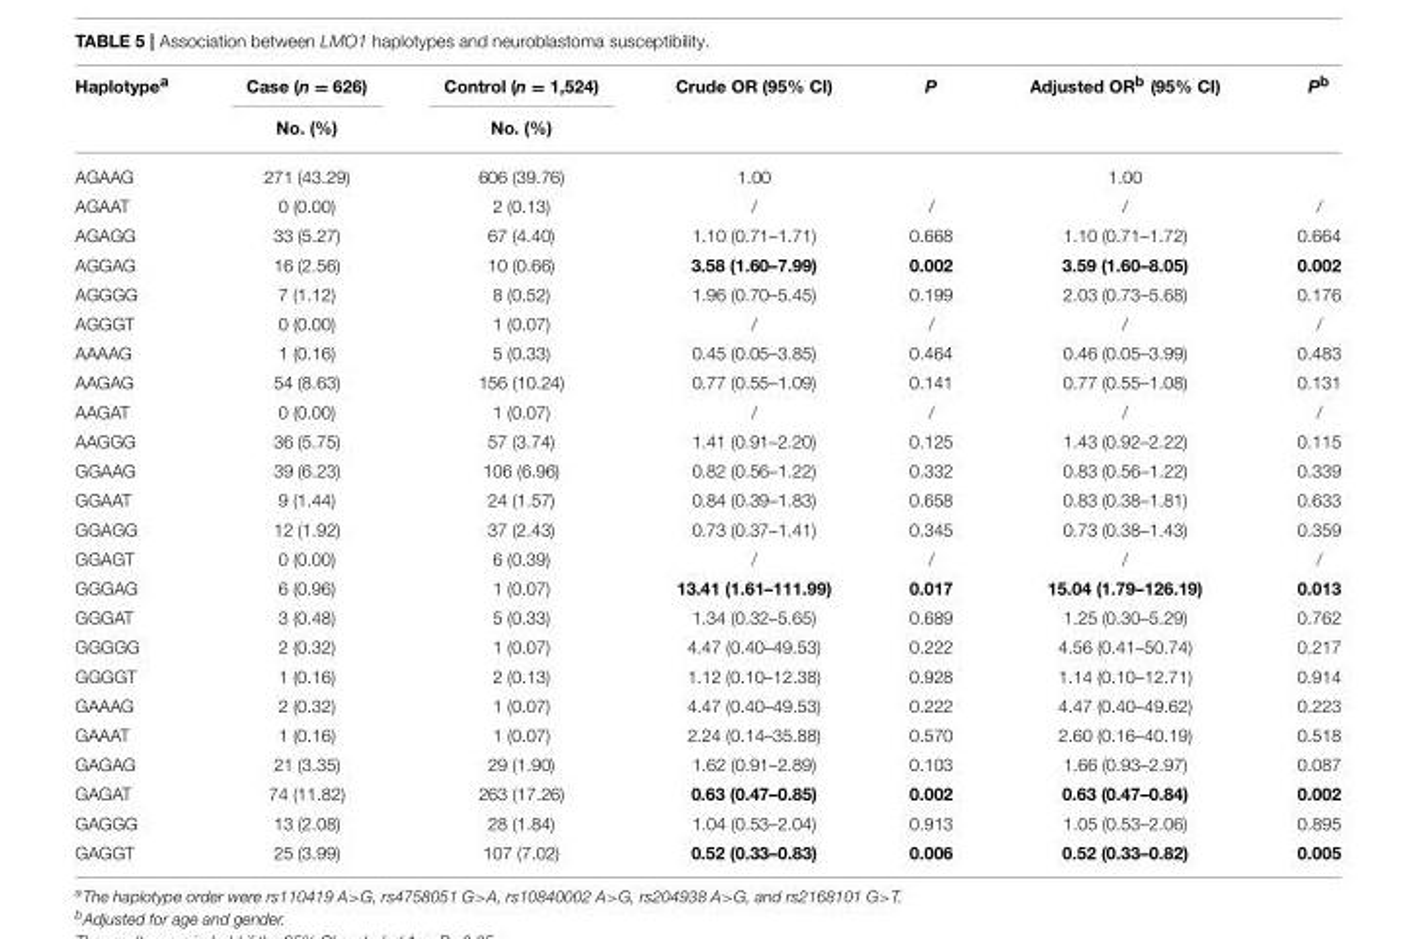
<table><thead><tr><td rowspan="2">Haplotype<sup>a</sup></td><td rowspan="2">Case (n = 626) No. (%)</td><td rowspan="2">Control (n = 1,524) No. (%)</td><td rowspan="2">Crude OR (95% CI)</td><td rowspan="2">P</td><td rowspan="2">Adjusted OR<sup>b</sup> (95% CI)</td><td rowspan="2">P<sup>b</sup></td></tr><tr></tr></thead><tbody><tr><td>AGAAG</td><td>271 (43.29)</td><td>606 (39.76)</td><td>1.00</td><td></td><td>1.00</td><td></td></tr><tr><td>AGAAT</td><td>0 (0.00)</td><td>2 (0.13)</td><td>/</td><td>/</td><td>/</td><td>/</td></tr><tr><td>AGAGG</td><td>33 (5.27)</td><td>67 (4.40)</td><td>1.10 (0.71–1.71)</td><td>0.668</td><td>1.10 (0.71–1.72)</td><td>0.664</td></tr><tr><td>AGGAG</td><td>16 (2.56)</td><td>10 (0.66)</td><td>3.58 (1.60–7.99)</td><td>0.002</td><td>3.59 (1.60–8.05)</td><td>0.002</td></tr><tr><td>AGGGG</td><td>7 (1.12)</td><td>8 (0.52)</td><td>1.96 (0.70–5.45)</td><td>0.199</td><td>2.03 (0.73–5.68)</td><td>0.176</td></tr><tr><td>AGGGT</td><td>0 (0.00)</td><td>1 (0.07)</td><td>/</td><td>/</td><td>/</td><td>/</td></tr><tr><td>AAAAG</td><td>1 (0.16)</td><td>5 (0.33)</td><td>0.45 (0.05–3.85)</td><td>0.464</td><td>0.46 (0.05–3.99)</td><td>0.483</td></tr><tr><td>AAGAG</td><td>54 (8.63)</td><td>156 (10.24)</td><td>0.77 (0.55–1.09)</td><td>0.141</td><td>0.77 (0.55–1.08)</td><td>0.131</td></tr><tr><td>AAGAT</td><td>0 (0.00)</td><td>1 (0.07)</td><td>/</td><td>/</td><td>/</td><td>/</td></tr><tr><td>AAGGG</td><td>36 (5.75)</td><td>57 (3.74)</td><td>1.41 (0.91–2.20)</td><td>0.125</td><td>1.43 (0.92–2.22)</td><td>0.115</td></tr><tr><td>GGAAG</td><td>39 (6.23)</td><td>106 (6.96)</td><td>0.82 (0.56–1.22)</td><td>0.332</td><td>0.83 (0.56–1.22)</td><td>0.339</td></tr><tr><td>GGAAT</td><td>9 (1.44)</td><td>24 (1.57)</td><td>0.84 (0.39–1.83)</td><td>0.658</td><td>0.83 (0.38–1.81)</td><td>0.633</td></tr><tr><td>GGAGG</td><td>12 (1.92)</td><td>37 (2.43)</td><td>0.73 (0.37–1.41)</td><td>0.345</td><td>0.73 (0.38–1.43)</td><td>0.359</td></tr><tr><td>GGAGT</td><td>0 (0.00)</td><td>6 (0.39)</td><td>/</td><td>/</td><td>/</td><td>/</td></tr><tr><td>GGGAG</td><td>6 (0.96)</td><td>1 (0.07)</td><td>13.41 (1.61–111.99)</td><td>0.017</td><td>15.04 (1.79–126.19)</td><td>0.013</td></tr><tr><td>GGGAT</td><td>3 (0.48)</td><td>5 (0.33)</td><td>1.34 (0.32–5.65)</td><td>0.689</td><td>1.25 (0.30–5.29)</td><td>0.762</td></tr><tr><td>GGGGG</td><td>2 (0.32)</td><td>1 (0.07)</td><td>4.47 (0.40–49.53)</td><td>0.222</td><td>4.56 (0.41–50.74)</td><td>0.217</td></tr><tr><td>GGGGT</td><td>1 (0.16)</td><td>2 (0.13)</td><td>1.12 (0.10–12.38)</td><td>0.928</td><td>1.14 (0.10–12.71)</td><td>0.914</td></tr><tr><td>GAAAG</td><td>2 (0.32)</td><td>1 (0.07)</td><td>4.47 (0.40–49.53)</td><td>0.222</td><td>4.47 (0.40–49.62)</td><td>0.223</td></tr><tr><td>GAAAT</td><td>1 (0.16)</td><td>1 (0.07)</td><td>2.24 (0.14–35.88)</td><td>0.570</td><td>2.60 (0.16–40.19)</td><td>0.518</td></tr><tr><td>GAGAG</td><td>21 (3.35)</td><td>29 (1.90)</td><td>1.62 (0.91–2.89)</td><td>0.103</td><td>1.66 (0.93–2.97)</td><td>0.087</td></tr><tr><td>GAGAT</td><td>74 (11.82)</td><td>263 (17.26)</td><td>0.63 (0.47–0.85)</td><td>0.002</td><td>0.63 (0.47–0.84)</td><td>0.002</td></tr><tr><td>GAGGG</td><td>13 (2.08)</td><td>28 (1.84)</td><td>1.04 (0.53–2.04)</td><td>0.913</td><td>1.05 (0.53–2.06)</td><td>0.895</td></tr><tr><td>GAGGT</td><td>25 (3.99)</td><td>107 (7.02)</td><td>0.52 (0.33–0.83)</td><td>0.006</td><td>0.52 (0.33–0.82)</td><td>0.005</td></tr></tbody></table>